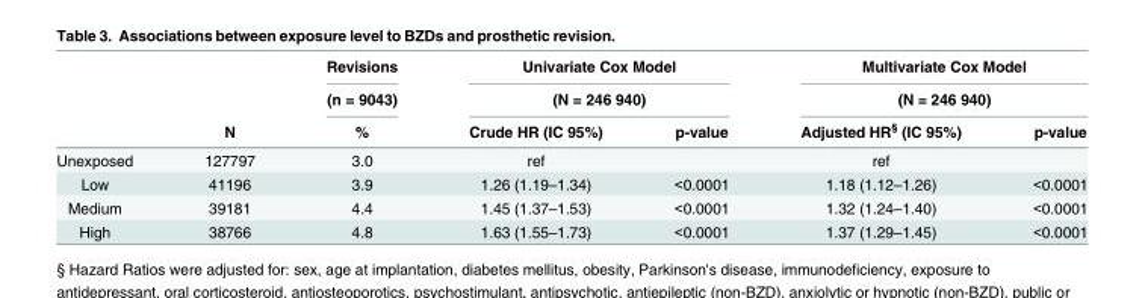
<table><thead><tr><td rowspan="3"></td><td rowspan="3">N</td><td rowspan="3">Revisions (n = 9043) %</td><td rowspan="2" colspan="2">Univariate Cox Model (N = 246 940)</td><td rowspan="2" colspan="2">Multivariate Cox Model (N = 246 940)</td></tr><tr></tr><tr><td>Crude HR (IC 95%)</td><td>p-value</td><td>Adjusted HR<sup>§</sup> (IC 95%)</td><td>p-value</td></tr></thead><tbody><tr><td>Unexposed</td><td>127797</td><td>3.0</td><td>ref</td><td></td><td>ref</td><td></td></tr><tr><td>Low</td><td>41196</td><td>3.9</td><td>1.26 (1.19–1.34)</td><td>&lt;0.0001</td><td>1.18 (1.12–1.26)</td><td>&lt;0.0001</td></tr><tr><td>Medium</td><td>39181</td><td>4.4</td><td>1.45 (1.37–1.53)</td><td>&lt;0.0001</td><td>1.32 (1.24–1.40)</td><td>&lt;0.0001</td></tr><tr><td>High</td><td>38766</td><td>4.8</td><td>1.63 (1.55–1.73)</td><td>&lt;0.0001</td><td>1.37 (1.29–1.45)</td><td>&lt;0.0001</td></tr></tbody></table>